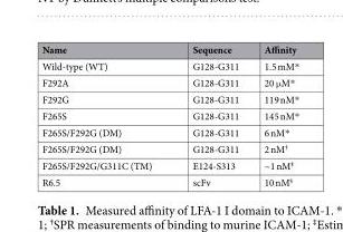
<table><thead><tr><td>Name</td><td>Sequence</td><td>Affinity</td></tr></thead><tbody><tr><td>Wild-type (WT)</td><td>G128-G311</td><td>1.5 mM*</td></tr><tr><td>F292A</td><td>G128-G311</td><td>20 μM*</td></tr><tr><td>F292G</td><td>G128-G311</td><td>119 nM*</td></tr><tr><td>F265S</td><td>G128-G311</td><td>145 nM*</td></tr><tr><td>F265S/F292G (DM)</td><td>G128-G311</td><td>6 nM*</td></tr><tr><td>F265S/F292G (DM)</td><td>G128-G311</td><td>2 nM<sup>†</sup></td></tr><tr><td>F265S/F292G/G311C (TM)</td><td>E124-S313</td><td>~1 nM<sup>‡</sup></td></tr><tr><td>R6.5</td><td>scFv</td><td>10 nM<sup>§</sup></td></tr></tbody></table>